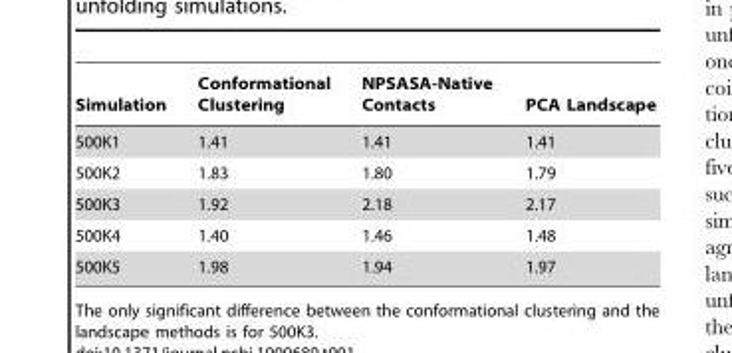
<table><thead><tr><td>Simulation</td><td>Conformational Clustering</td><td>NPSASA-Native Contacts</td><td>PCA Landscape</td></tr></thead><tbody><tr><td>500K1</td><td>1.41</td><td>1.41</td><td>1.41</td></tr><tr><td>500K2</td><td>1.83</td><td>1.80</td><td>1.79</td></tr><tr><td>500K3</td><td>1.92</td><td>2.18</td><td>2.17</td></tr><tr><td>500K4</td><td>1.40</td><td>1.46</td><td>1.48</td></tr><tr><td>500K5</td><td>1.98</td><td>1.94</td><td>1.97</td></tr></tbody></table>